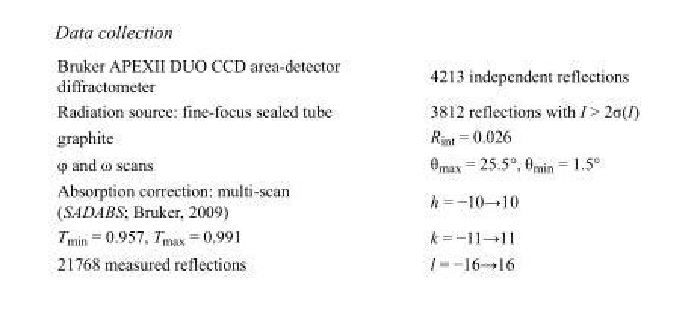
<table><tbody><tr><td>Bruker APEXII DUO CCD area-detector diffractometer</td><td>4213 independent reflections</td></tr><tr><td>Radiation source: fine-focus sealed tube</td><td>3812 reflections with I &gt; 2σ(I)</td></tr><tr><td>graphite</td><td>R<sub>int</sub> = 0.026</td></tr><tr><td>φ and ω scans</td><td>θ<sub>max</sub> = 25.5°, θ<sub>min</sub> = 1.5°</td></tr><tr><td>Absorption correction: multi-scan (SADABS; Bruker, 2009)</td><td>h = −10→10</td></tr><tr><td>T<sub>min</sub> = 0.957, T<sub>max</sub> = 0.991</td><td>k = −11→11</td></tr><tr><td>21768 measured reflections</td><td>l = −16→16</td></tr></tbody></table>